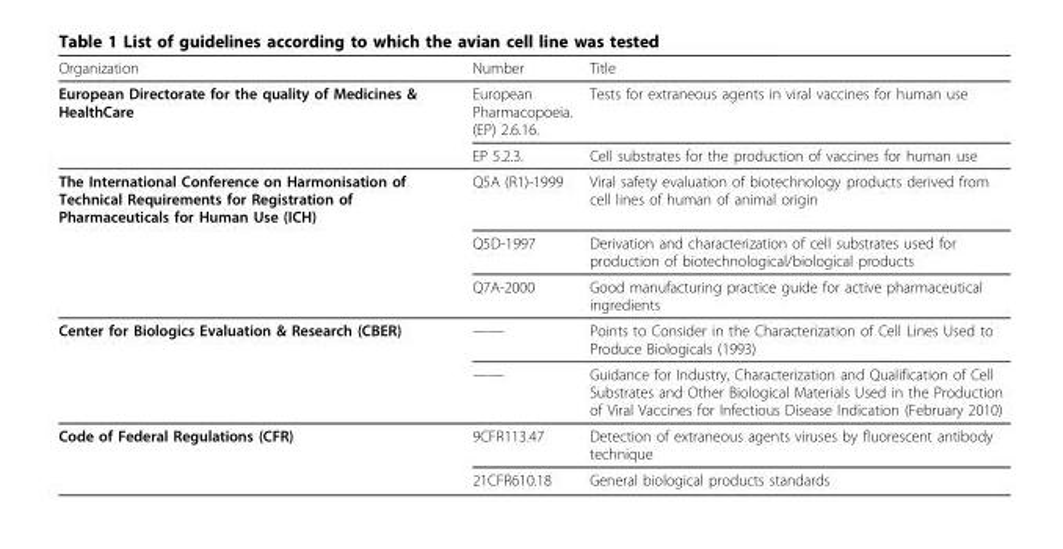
<table><thead><tr><td>Organization</td><td>Number</td><td>Title</td></tr></thead><tbody><tr><td rowspan="2">European Directorate for the quality of Medicines &amp; HealthCare</td><td>European Pharmacopoeia. (EP) 2.6.16.</td><td>Tests for extraneous agents in viral vaccines for human use</td></tr><tr><td>EP 5.2.3.</td><td>Cell substrates for the production of vaccines for human use</td></tr><tr><td rowspan="3">The International Conference on Harmonisation of Technical Requirements for Registration of Pharmaceuticals for Human Use (ICH)</td><td>Q5A (R1)-1999</td><td>Viral safety evaluation of biotechnology products derived from cell lines of human of animal origin</td></tr><tr><td>Q5D-1997</td><td>Derivation and characterization of cell substrates used for production of biotechnological/biological products</td></tr><tr><td>Q7A-2000</td><td>Good manufacturing practice guide for active pharmaceutical ingredients</td></tr><tr><td rowspan="2">Center for Biologics Evaluation &amp; Research (CBER)</td><td>——</td><td>Points to Consider in the Characterization of Cell Lines Used to Produce Biologicals (1993)</td></tr><tr><td>——</td><td>Guidance for Industry, Characterization and Qualification of Cell Substrates and Other Biological Materials Used in the Production of Viral Vaccines for Infectious Disease Indication (February 2010)</td></tr><tr><td rowspan="2">Code of Federal Regulations (CFR)</td><td>9CFR113.47</td><td>Detection of extraneous agents viruses by fluorescent antibody technique</td></tr><tr><td>21CFR610.18</td><td>General biological products standards</td></tr></tbody></table>